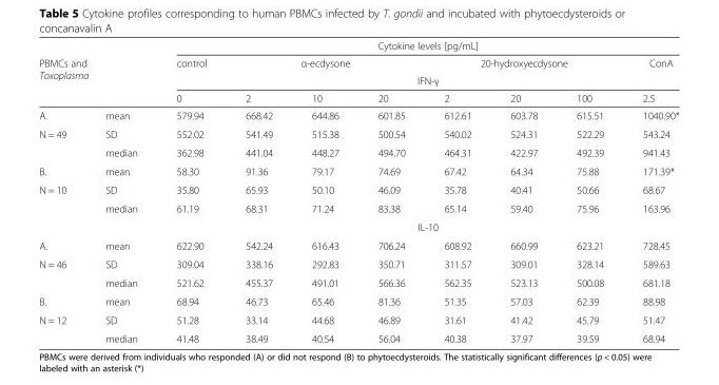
<table><thead><tr><td></td><td></td><td colspan="8">Cytokine levels [pg/mL]</td></tr><tr><td rowspan="3" colspan="2">PBMCs and Toxoplasma</td><td>control</td><td colspan="3">α-ecdysone</td><td colspan="3">20-hydroxyecdysone</td><td>ConA</td></tr><tr><td colspan="8">IFN-γ</td></tr><tr><td>0</td><td>2</td><td>10</td><td>20</td><td>2</td><td>20</td><td>100</td><td>2.5</td></tr></thead><tbody><tr><td>A.</td><td>mean</td><td>579.94</td><td>668.42</td><td>644.86</td><td>601.85</td><td>612.61</td><td>603.78</td><td>615.51</td><td>1040.90*</td></tr><tr><td rowspan="2">N = 49</td><td>SD</td><td>552.02</td><td>541.49</td><td>515.38</td><td>500.54</td><td>540.02</td><td>524.31</td><td>522.29</td><td>543.24</td></tr><tr><td>median</td><td>362.98</td><td>441.04</td><td>448.27</td><td>494.70</td><td>464.31</td><td>422.97</td><td>492.39</td><td>941.43</td></tr><tr><td>B.</td><td>mean</td><td>58.30</td><td>91.36</td><td>79.17</td><td>74.69</td><td>67.42</td><td>64.34</td><td>75.88</td><td>171.39*</td></tr><tr><td rowspan="2">N = 10</td><td>SD</td><td>35.80</td><td>65.93</td><td>50.10</td><td>46.09</td><td>35.78</td><td>40.41</td><td>50.66</td><td>68.67</td></tr><tr><td>median</td><td>61.19</td><td>68.31</td><td>71.24</td><td>83.38</td><td>65.14</td><td>59.40</td><td>75.96</td><td>163.96</td></tr><tr><td colspan="2"></td><td colspan="8">IL-10</td></tr><tr><td>A.</td><td>mean</td><td>622.90</td><td>542.24</td><td>616.43</td><td>706.24</td><td>608.92</td><td>660.99</td><td>623.21</td><td>728.45</td></tr><tr><td rowspan="2">N = 46</td><td>SD</td><td>309.04</td><td>338.16</td><td>292.83</td><td>350.71</td><td>311.57</td><td>309.01</td><td>328.14</td><td>589.63</td></tr><tr><td>median</td><td>521.62</td><td>455.37</td><td>491.01</td><td>566.36</td><td>562.35</td><td>523.13</td><td>500.08</td><td>681.18</td></tr><tr><td>B.</td><td>mean</td><td>68.94</td><td>46.73</td><td>65.46</td><td>81.36</td><td>51.35</td><td>57.03</td><td>62.39</td><td>88.98</td></tr><tr><td rowspan="2">N = 12</td><td>SD</td><td>51.28</td><td>33.14</td><td>44.68</td><td>46.89</td><td>31.61</td><td>41.42</td><td>45.79</td><td>51.47</td></tr><tr><td>median</td><td>41.48</td><td>38.49</td><td>40.54</td><td>56.04</td><td>40.38</td><td>37.97</td><td>39.59</td><td>68.94</td></tr></tbody></table>